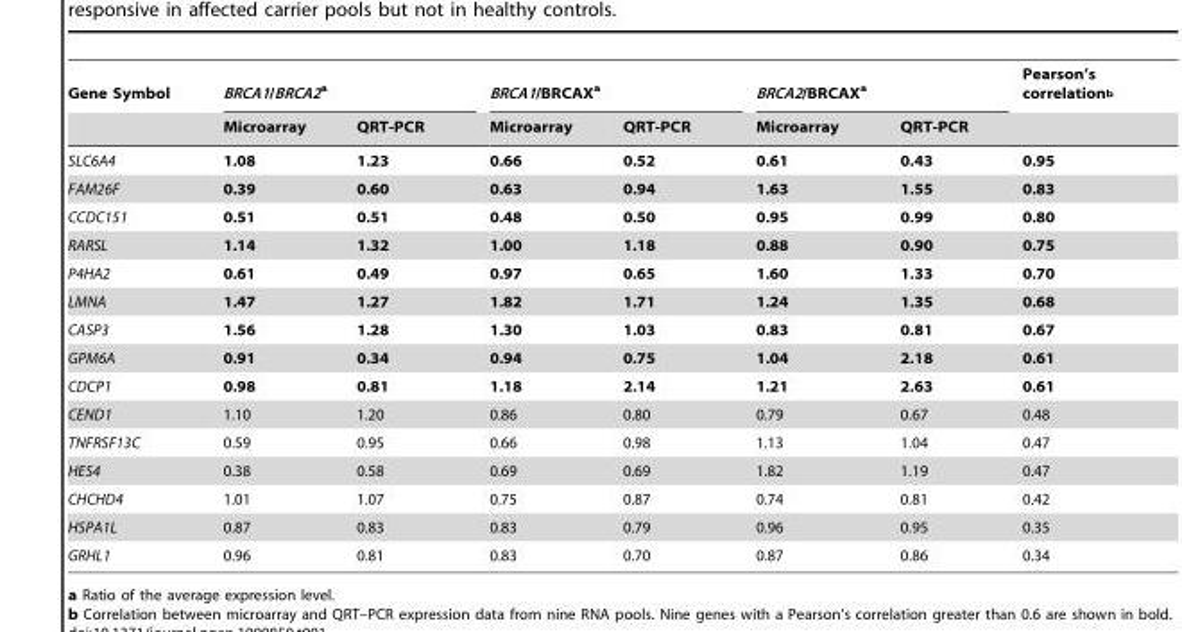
<table><thead><tr><td rowspan="2">Gene Symbol</td><td colspan="2">BRCA1/BRCA2<sup>a</sup></td><td colspan="2">BRCA1/BRCAX<sup>a</sup></td><td colspan="2">BRCA2/BRCAX<sup>a</sup></td><td rowspan="2">Pearson’s correlation<sup>b</sup></td></tr><tr><td>Microarray</td><td>QRT-PCR</td><td>Microarray</td><td>QRT-PCR</td><td>Microarray</td><td>QRT-PCR</td></tr></thead><tbody><tr><td>SLC6A4</td><td>1.08</td><td>1.23</td><td>0.66</td><td>0.52</td><td>0.61</td><td>0.43</td><td>0.95</td></tr><tr><td>FAM26F</td><td>0.39</td><td>0.60</td><td>0.63</td><td>0.94</td><td>1.63</td><td>1.55</td><td>0.83</td></tr><tr><td>CCDC151</td><td>0.51</td><td>0.51</td><td>0.48</td><td>0.50</td><td>0.95</td><td>0.99</td><td>0.80</td></tr><tr><td>RARSL</td><td>1.14</td><td>1.32</td><td>1.00</td><td>1.18</td><td>0.88</td><td>0.90</td><td>0.75</td></tr><tr><td>P4HA2</td><td>0.61</td><td>0.49</td><td>0.97</td><td>0.65</td><td>1.60</td><td>1.33</td><td>0.70</td></tr><tr><td>LMNA</td><td>1.47</td><td>1.27</td><td>1.82</td><td>1.71</td><td>1.24</td><td>1.35</td><td>0.68</td></tr><tr><td>CASP3</td><td>1.56</td><td>1.28</td><td>1.30</td><td>1.03</td><td>0.83</td><td>0.81</td><td>0.67</td></tr><tr><td>GPM6A</td><td>0.91</td><td>0.34</td><td>0.94</td><td>0.75</td><td>1.04</td><td>2.18</td><td>0.61</td></tr><tr><td>CDCP1</td><td>0.98</td><td>0.81</td><td>1.18</td><td>2.14</td><td>1.21</td><td>2.63</td><td>0.61</td></tr><tr><td>CEND1</td><td>1.10</td><td>1.20</td><td>0.86</td><td>0.80</td><td>0.79</td><td>0.67</td><td>0.48</td></tr><tr><td>TNFRSF13C</td><td>0.59</td><td>0.95</td><td>0.66</td><td>0.98</td><td>1.13</td><td>1.04</td><td>0.47</td></tr><tr><td>HES4</td><td>0.38</td><td>0.58</td><td>0.69</td><td>0.69</td><td>1.82</td><td>1.19</td><td>0.47</td></tr><tr><td>CHCHD4</td><td>1.01</td><td>1.07</td><td>0.75</td><td>0.87</td><td>0.74</td><td>0.81</td><td>0.42</td></tr><tr><td>HSPA1L</td><td>0.87</td><td>0.83</td><td>0.83</td><td>0.79</td><td>0.96</td><td>0.95</td><td>0.35</td></tr><tr><td>GRHL1</td><td>0.96</td><td>0.81</td><td>0.83</td><td>0.70</td><td>0.87</td><td>0.86</td><td>0.34</td></tr></tbody></table>